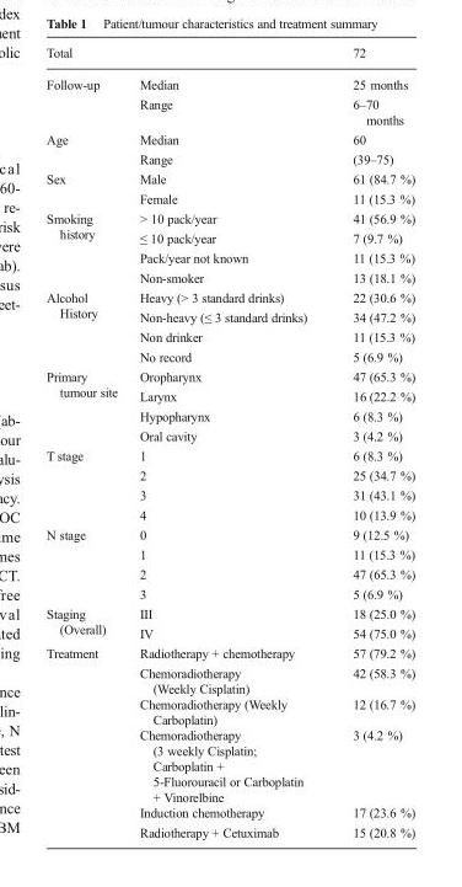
<table><thead><tr><td>Total</td><td></td><td>72</td></tr></thead><tbody><tr><td rowspan="2">Follow-up</td><td>Median</td><td>25 months</td></tr><tr><td>Range</td><td>6–70 months</td></tr><tr><td rowspan="2">Age</td><td>Median</td><td>60</td></tr><tr><td>Range</td><td>(39–75)</td></tr><tr><td rowspan="2">Sex</td><td>Male</td><td>61 (84.7 %)</td></tr><tr><td>Female</td><td>11 (15.3 %)</td></tr><tr><td rowspan="4">Smoking history</td><td>&gt; 10 pack/year</td><td>41 (56.9 %)</td></tr><tr><td>≤ 10 pack/year</td><td>7 (9.7 %)</td></tr><tr><td>Pack/year not known</td><td>11 (15.3 %)</td></tr><tr><td>Non-smoker</td><td>13 (18.1 %)</td></tr><tr><td rowspan="4">Alcohol History</td><td>Heavy (&gt; 3 standard drinks)</td><td>22 (30.6 %)</td></tr><tr><td>Non-heavy (≤ 3 standard drinks)</td><td>34 (47.2 %)</td></tr><tr><td>Non drinker</td><td>11 (15.3 %)</td></tr><tr><td>No record</td><td>5 (6.9 %)</td></tr><tr><td rowspan="4">Primary tumour site</td><td>Oropharynx</td><td>47 (65.3 %)</td></tr><tr><td>Larynx</td><td>16 (22.2 %)</td></tr><tr><td>Hypopharynx</td><td>6 (8.3 %)</td></tr><tr><td>Oral cavity</td><td>3 (4.2 %)</td></tr><tr><td rowspan="4">T stage</td><td>1</td><td>6 (8.3 %)</td></tr><tr><td>2</td><td>25 (34.7 %)</td></tr><tr><td>3</td><td>31 (43.1 %)</td></tr><tr><td>4</td><td>10 (13.9 %)</td></tr><tr><td rowspan="4">N stage</td><td>0</td><td>9 (12.5 %)</td></tr><tr><td>1</td><td>11 (15.3 %)</td></tr><tr><td>2</td><td>47 (65.3 %)</td></tr><tr><td>3</td><td>5 (6.9 %)</td></tr><tr><td rowspan="2">Staging (Overall)</td><td>III</td><td>18 (25.0 %)</td></tr><tr><td>IV</td><td>54 (75.0 %)</td></tr><tr><td rowspan="6">Treatment</td><td>Radiotherapy + chemotherapy</td><td>57 (79.2 %)</td></tr><tr><td>Chemoradiotherapy (Weekly Cisplatin)</td><td>42 (58.3 %)</td></tr><tr><td>Chemoradiotherapy (Weekly Carboplatin)</td><td>12 (16.7 %)</td></tr><tr><td>Chemoradiotherapy (3 weekly Cisplatin; Carboplatin + 5-Fluorouracil or Carboplatin + Vinorelbine</td><td>3 (4.2 %)</td></tr><tr><td>Induction chemotherapy</td><td>17 (23.6 %)</td></tr><tr><td>Radiotherapy + Cetuximab</td><td>15 (20.8 %)</td></tr></tbody></table>